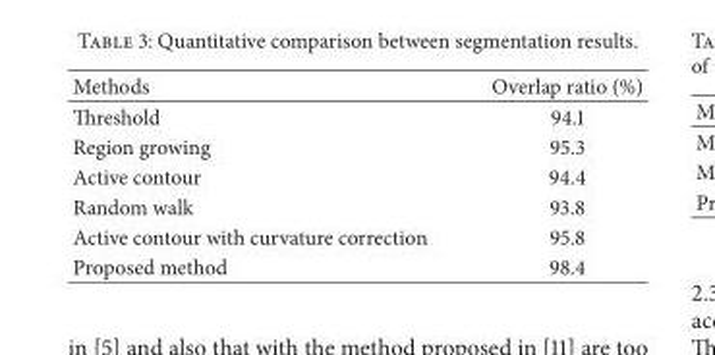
<table><thead><tr><td>Methods</td><td>Overlap ratio (%)</td></tr></thead><tbody><tr><td>Threshold</td><td>94.1</td></tr><tr><td>Region growing</td><td>95.3</td></tr><tr><td>Active contour</td><td>94.4</td></tr><tr><td>Random walk</td><td>93.8</td></tr><tr><td>Active contour with curvature correction</td><td>95.8</td></tr><tr><td>Proposed method</td><td>98.4</td></tr></tbody></table>